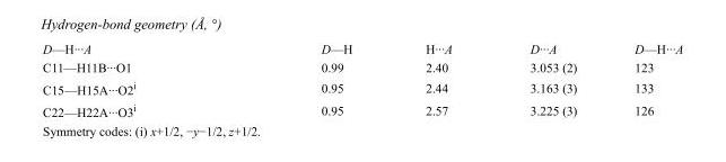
<table><tbody><tr><td>D—H···A</td><td>D—H</td><td>H···A</td><td>D···A</td><td>D—H···A</td></tr><tr><td>C11—H11B···O1</td><td>0.99</td><td>2.40</td><td>3.053 (2)</td><td>123</td></tr><tr><td>C15—H15A···O2<sup>i</sup></td><td>0.95</td><td>2.44</td><td>3.163 (3)</td><td>133</td></tr><tr><td>C22—H22A···O3<sup>i</sup></td><td>0.95</td><td>2.57</td><td>3.225 (3)</td><td>126</td></tr></tbody></table>